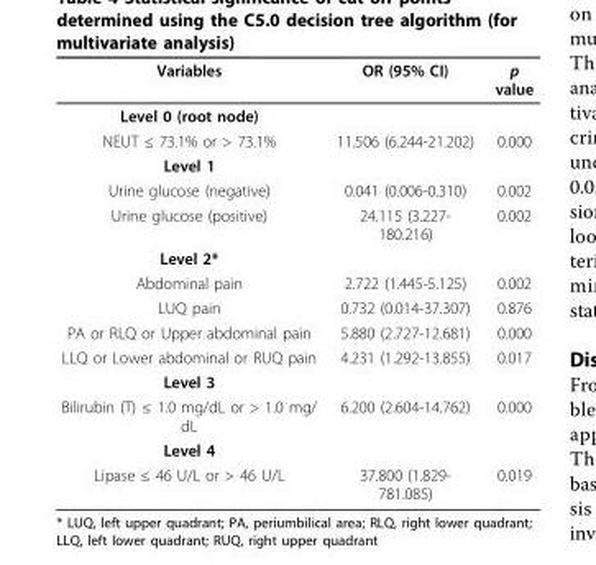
<table><thead><tr><td>Variables</td><td>OR (95% CI)</td><td>p value</td></tr></thead><tbody><tr><td colspan="3">Level 0 (root node)</td></tr><tr><td>NEUT ≤ 73.1% or &gt; 73.1%</td><td>11.506 (6.244-21.202)</td><td>0.000</td></tr><tr><td colspan="3">Level 1</td></tr><tr><td>Urine glucose (negative)</td><td>0.041 (0.006-0.310)</td><td>0.002</td></tr><tr><td>Urine glucose (positive)</td><td>24.115 (3.227- 180.216)</td><td>0.002</td></tr><tr><td colspan="3">Level 2*</td></tr><tr><td>Abdominal pain</td><td>2.722 (1.445-5.125)</td><td>0.002</td></tr><tr><td>LUQ pain</td><td>0.732 (0.014-37.307)</td><td>0.876</td></tr><tr><td>PA or RLQ or Upper abdominal pain</td><td>5.880 (2.727-12.681)</td><td>0.000</td></tr><tr><td>LLQ or Lower abdominal or RUQ pain</td><td>4.231 (1.292-13.855)</td><td>0.017</td></tr><tr><td colspan="3">Level 3</td></tr><tr><td>Bilirubin (T) ≤ 1.0 mg/dL or &gt; 1.0 mg/ dL</td><td>6.200 (2.604-14.762)</td><td>0.000</td></tr><tr><td colspan="3">Level 4</td></tr><tr><td>Lipase ≤ 46 U/L or &gt; 46 U/L</td><td>37.800 (1.829- 781.085)</td><td>0.019</td></tr></tbody></table>